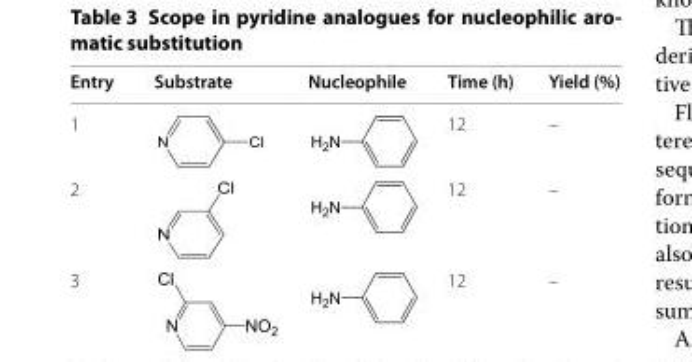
<table><thead><tr><td>Entry</td><td>Substrate</td><td>Nucleophile</td><td>Time (h)</td><td>Yield (%)</td></tr></thead><tbody><tr><td>1</td><td></td><td></td><td>12</td><td>–</td></tr><tr><td>2</td><td></td><td></td><td>12</td><td>–</td></tr><tr><td>3</td><td></td><td></td><td>12</td><td>–</td></tr></tbody></table>